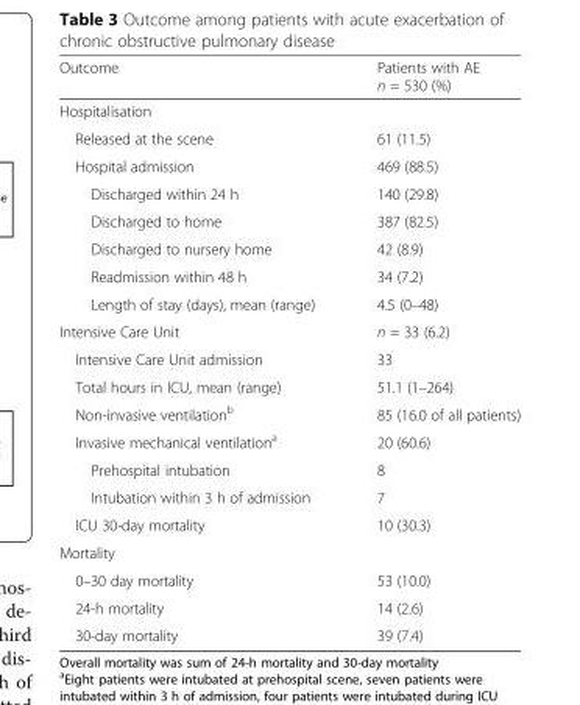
<table><thead><tr><td>Outcome</td><td>Patients with AE n = 530 (%)</td></tr></thead><tbody><tr><td colspan="2">Hospitalisation</td></tr><tr><td>Released at the scene</td><td>61 (11.5)</td></tr><tr><td>Hospital admission</td><td>469 (88.5)</td></tr><tr><td>Discharged within 24 h</td><td>140 (29.8)</td></tr><tr><td>Discharged to home</td><td>387 (82.5)</td></tr><tr><td>Discharged to nursery home</td><td>42 (8.9)</td></tr><tr><td>Readmission within 48 h</td><td>34 (7.2)</td></tr><tr><td>Length of stay (days), mean (range)</td><td>4.5 (0–48)</td></tr><tr><td>Intensive Care Unit</td><td>n = 33 (6.2)</td></tr><tr><td>Intensive Care Unit admission</td><td>33</td></tr><tr><td>Total hours in ICU, mean (range)</td><td>51.1 (1–264)</td></tr><tr><td>Non-invasive ventilation<sup>b</sup></td><td>85 (16.0 of all patients)</td></tr><tr><td>Invasive mechanical ventilation<sup>a</sup></td><td>20 (60.6)</td></tr><tr><td>Prehospital intubation</td><td>8</td></tr><tr><td>Intubation within 3 h of admission</td><td>7</td></tr><tr><td>ICU 30-day mortality</td><td>10 (30.3)</td></tr><tr><td colspan="2">Mortality</td></tr><tr><td>0–30 day mortality</td><td>53 (10.0)</td></tr><tr><td>24-h mortality</td><td>14 (2.6)</td></tr><tr><td>30-day mortality</td><td>39 (7.4)</td></tr></tbody></table>